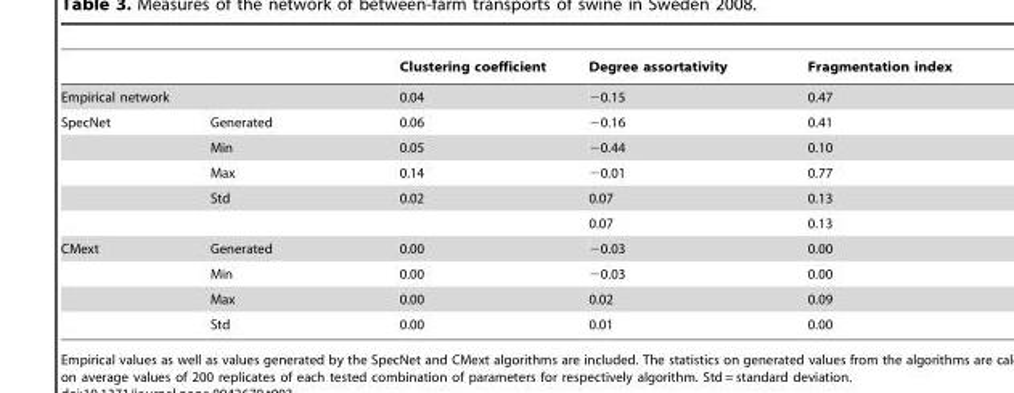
<table><thead><tr><td></td><td></td><td>Clustering coefficient</td><td>Degree assortativity</td><td>Fragmentation index</td></tr></thead><tbody><tr><td colspan="2">Empirical network</td><td>0.04</td><td>−0.15</td><td>0.47</td></tr><tr><td rowspan="5">SpecNet</td><td>Generated</td><td>0.06</td><td>−0.16</td><td>0.41</td></tr><tr><td>Min</td><td>0.05</td><td>−0.44</td><td>0.10</td></tr><tr><td>Max</td><td>0.14</td><td>−0.01</td><td>0.77</td></tr><tr><td>Std</td><td>0.02</td><td>0.07</td><td>0.13</td></tr><tr><td></td><td></td><td>0.07</td><td>0.13</td></tr><tr><td rowspan="4">CMext</td><td>Generated</td><td>0.00</td><td>−0.03</td><td>0.00</td></tr><tr><td>Min</td><td>0.00</td><td>−0.03</td><td>0.00</td></tr><tr><td>Max</td><td>0.00</td><td>0.02</td><td>0.09</td></tr><tr><td>Std</td><td>0.00</td><td>0.01</td><td>0.00</td></tr></tbody></table>